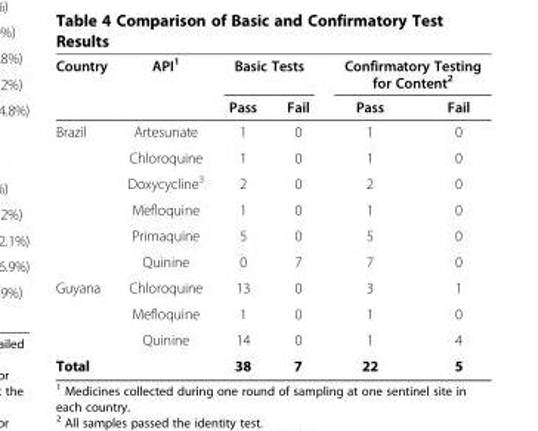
<table><thead><tr><td rowspan="2">Country</td><td rowspan="2">API<sup>1</sup></td><td colspan="2">Basic Tests</td><td colspan="2">Confirmatory Testing for Content<sup>2</sup></td></tr><tr><td>Pass</td><td>Fail</td><td>Pass</td><td>Fail</td></tr></thead><tbody><tr><td rowspan="6">Brazil</td><td>Artesunate</td><td>1</td><td>0</td><td>1</td><td>0</td></tr><tr><td>Chloroquine</td><td>1</td><td>0</td><td>1</td><td>0</td></tr><tr><td>Doxycycline<sup>3</sup></td><td>2</td><td>0</td><td>2</td><td>0</td></tr><tr><td>Mefloquine</td><td>1</td><td>0</td><td>1</td><td>0</td></tr><tr><td>Primaquine</td><td>5</td><td>0</td><td>5</td><td>0</td></tr><tr><td>Quinine</td><td>0</td><td>7</td><td>7</td><td>0</td></tr><tr><td rowspan="3">Guyana</td><td>Chloroquine</td><td>13</td><td>0</td><td>3</td><td>1</td></tr><tr><td>Mefloquine</td><td>1</td><td>0</td><td>1</td><td>0</td></tr><tr><td>Quinine</td><td>14</td><td>0</td><td>1</td><td>4</td></tr><tr><td>Total</td><td></td><td>38</td><td>7</td><td>22</td><td>5</td></tr></tbody></table>